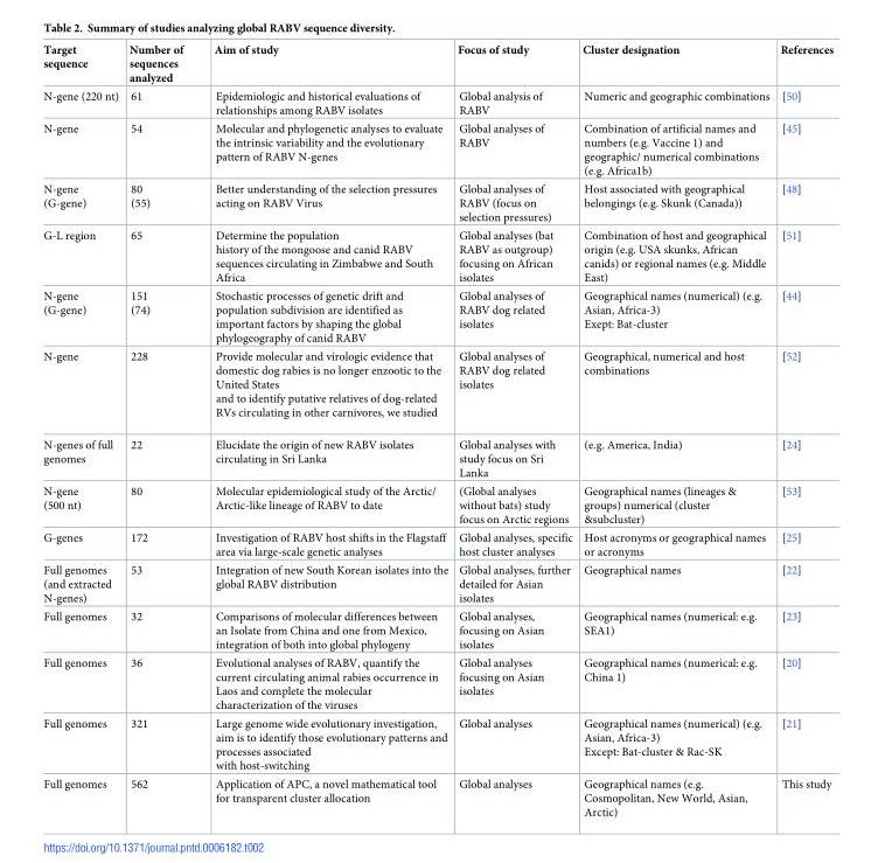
<table><thead><tr><td>Target sequence</td><td>Number of sequences analyzed</td><td>Aim of study</td><td>Focus of study</td><td>Cluster designation</td><td>References</td></tr></thead><tbody><tr><td>N-gene (220 nt)</td><td>61</td><td>Epidemiologic and historical evaluations of relationships among RABV isolates</td><td>Global analysis of RABV</td><td>Numeric and geographic combinations</td><td>[50]</td></tr><tr><td>N-gene</td><td>54</td><td>Molecular and phylogenetic analyses to evaluate the intrinsic variability and the evolutionary pattern of RABV N-genes</td><td>Global analyses of RABV</td><td>Combination of artificial names and numbers (e.g. Vaccine 1) and geographic/ numerical combinations (e.g. Africa1b)</td><td>[45]</td></tr><tr><td>N-gene (G-gene)</td><td>80 (55)</td><td>Better understanding of the selection pressures acting on RABV Virus</td><td>Global analyses of RABV (focus on selection pressures)</td><td>Host associated with geographical belongings (e.g. Skunk (Canada))</td><td>[48]</td></tr><tr><td>G-L region</td><td>65</td><td>Determine the population history of the mongoose and canid RABV sequences circulating in Zimbabwe and South Africa</td><td>Global analyses (bat RABV as outgroup) focusing on African isolates</td><td>Combination of host and geographical origin (e.g. USA skunks, African canids) or regional names (e.g. Middle East)</td><td>[51]</td></tr><tr><td>N-gene (G-gene)</td><td>151 (74)</td><td>Stochastic processes of genetic drift and population subdivision are identified as important factors by shaping the global phylogeography of canid RABV</td><td>Global analyses of RABV dog related isolates</td><td>Geographical names (numerical) (e.g. Asian, Africa-3) Exept: Bat-cluster</td><td>[44]</td></tr><tr><td>N-gene</td><td>228</td><td>Provide molecular and virologic evidence that domestic dog rabies is no longer enzootic to the United States and to identify putative relatives of dog-related RVs circulating in other carnivores, we studied</td><td>Global analyses of RABV dog related isolates</td><td>Geographical, numerical and host combinations</td><td>[52]</td></tr><tr><td>N-genes of full genomes</td><td>22</td><td>Elucidate the origin of new RABV isolates circulating in Sri Lanka</td><td>Global analyses with study focus on Sri Lanka</td><td>(e.g. America, India)</td><td>[24]</td></tr><tr><td>N-gene (500 nt)</td><td>80</td><td>Molecular epidemiological study of the Arctic/ Arctic-like lineage of RABV to date</td><td>(Global analyses without bats) study focus on Arctic regions</td><td>Geographical names (lineages &amp; groups) numerical (cluster &amp;subcluster)</td><td>[53]</td></tr><tr><td>G-genes</td><td>172</td><td>Investigation of RABV host shifts in the Flagstaff area via large-scale genetic analyses</td><td>Global analyses, specific host cluster analyses</td><td>Host acronyms or geographical names or acronyms</td><td>[25]</td></tr><tr><td>Full genomes (and extracted N-genes)</td><td>53</td><td>Integration of new South Korean isolates into the global RABV distribution</td><td>Global analyses, further detailed for Asian isolates</td><td>Geographical names</td><td>[22]</td></tr><tr><td>Full genomes</td><td>32</td><td>Comparisons of molecular differences between an Isolate from China and one from Mexico, integration of both into global phylogeny</td><td>Global analyses, focusing on Asian isolates</td><td>Geographical names (numerical: e.g. SEA1)</td><td>[23]</td></tr><tr><td>Full genomes</td><td>36</td><td>Evolutional analyses of RABV, quantify the current circulating animal rabies occurrence in Laos and complete the molecular characterization of the viruses</td><td>Global analyses focusing on Asian isolates</td><td>Geographical names (numerical: e.g. China 1)</td><td>[20]</td></tr><tr><td>Full genomes</td><td>321</td><td>Large genome wide evolutionary investigation, aim is to identify those evolutionary patterns and processes associated with host-switching</td><td>Global analyses</td><td>Geographical names (numerical) (e.g. Asian, Africa-3) Except: Bat-cluster &amp; Rac-SK</td><td>[21]</td></tr><tr><td>Full genomes</td><td>562</td><td>Application of APC, a novel mathematical tool for transparent cluster allocation</td><td>Global analyses</td><td>Geographical names (e.g. Cosmopolitan, New World, Asian, Arctic)</td><td>This study</td></tr></tbody></table>